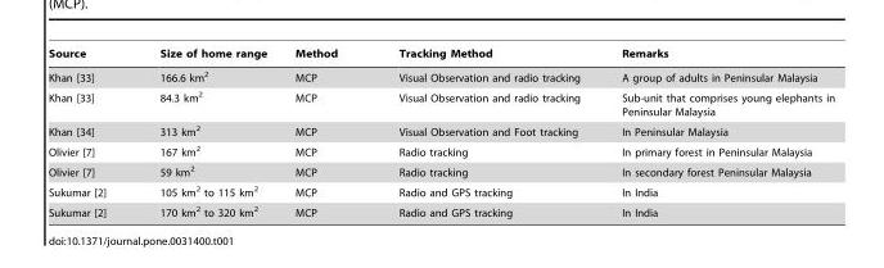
<table><thead><tr><td>Source</td><td>Size of home range</td><td>Method</td><td>Tracking Method</td><td>Remarks</td></tr></thead><tbody><tr><td>Khan [33]</td><td>166.6 km<sup>2</sup></td><td>MCP</td><td>Visual Observation and radio tracking</td><td>A group of adults in Peninsular Malaysia</td></tr><tr><td>Khan [33]</td><td>84.3 km<sup>2</sup></td><td>MCP</td><td>Visual Observation and radio tracking</td><td>Sub-unit that comprises young elephants in Peninsular Malaysia</td></tr><tr><td>Khan [34]</td><td>313 km<sup>2</sup></td><td>MCP</td><td>Visual Observation and Foot tracking</td><td>In Peninsular Malaysia</td></tr><tr><td>Olivier [7]</td><td>167 km<sup>2</sup></td><td>MCP</td><td>Radio tracking</td><td>In primary forest in Peninsular Malaysia</td></tr><tr><td>Olivier [7]</td><td>59 km<sup>2</sup></td><td>MCP</td><td>Radio tracking</td><td>In secondary forest Peninsular Malaysia</td></tr><tr><td>Sukumar [2]</td><td>105 km<sup>2</sup> to 115 km<sup>2</sup></td><td>MCP</td><td>Radio and GPS tracking</td><td>In India</td></tr><tr><td>Sukumar [2]</td><td>170 km<sup>2</sup> to 320 km<sup>2</sup></td><td>MCP</td><td>Radio and GPS tracking</td><td>In India</td></tr></tbody></table>